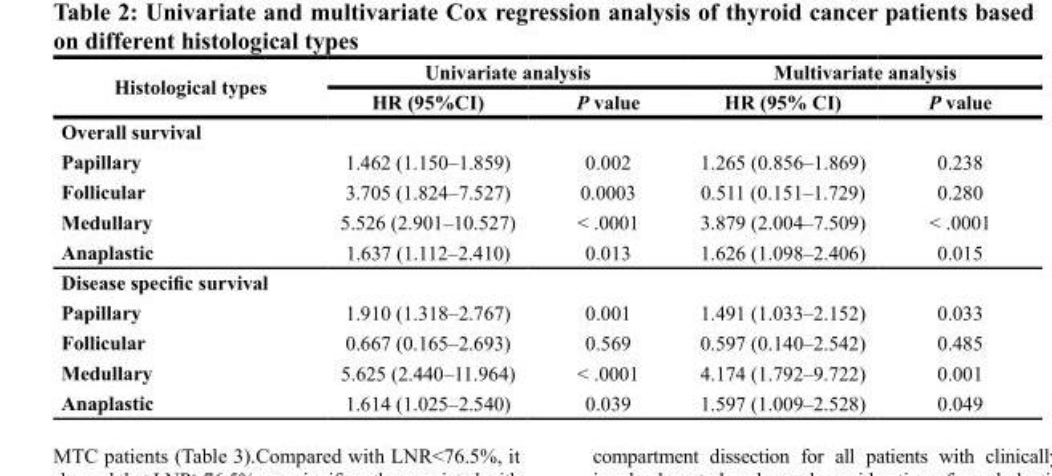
<table><thead><tr><td rowspan="2">Histological types</td><td colspan="2">Univariate analysis</td><td colspan="2">Multivariate analysis</td></tr><tr><td>HR (95%CI)</td><td>P value</td><td>HR (95% CI)</td><td>P value</td></tr></thead><tbody><tr><td colspan="5">Overall survival</td></tr><tr><td>Papillary</td><td>1.462 (1.150–1.859)</td><td>0.002</td><td>1.265 (0.856–1.869)</td><td>0.238</td></tr><tr><td>Follicular</td><td>3.705 (1.824–7.527)</td><td>0.0003</td><td>0.511 (0.151–1.729)</td><td>0.280</td></tr><tr><td>Medullary</td><td>5.526 (2.901–10.527)</td><td>&lt; .0001</td><td>3.879 (2.004–7.509)</td><td>&lt; .0001</td></tr><tr><td>Anaplastic</td><td>1.637 (1.112–2.410)</td><td>0.013</td><td>1.626 (1.098–2.406)</td><td>0.015</td></tr><tr><td colspan="5">Disease specific survival</td></tr><tr><td>Papillary</td><td>1.910 (1.318–2.767)</td><td>0.001</td><td>1.491 (1.033–2.152)</td><td>0.033</td></tr><tr><td>Follicular</td><td>0.667 (0.165–2.693)</td><td>0.569</td><td>0.597 (0.140–2.542)</td><td>0.485</td></tr><tr><td>Medullary</td><td>5.625 (2.440–11.964)</td><td>&lt; .0001</td><td>4.174 (1.792–9.722)</td><td>0.001</td></tr><tr><td>Anaplastic</td><td>1.614 (1.025–2.540)</td><td>0.039</td><td>1.597 (1.009–2.528)</td><td>0.049</td></tr></tbody></table>